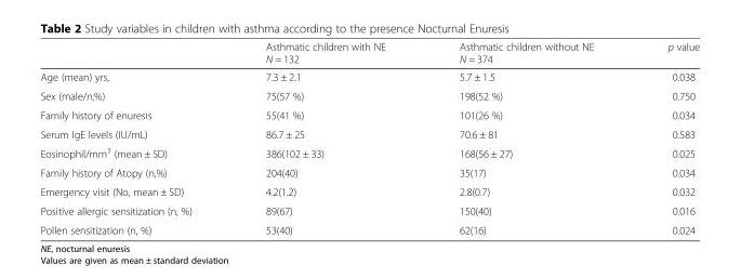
<table><thead><tr><td></td><td>Asthmatic children with NE N = 132</td><td>Asthmatic children without NE N = 374</td><td>p value</td></tr></thead><tbody><tr><td>Age (mean) yrs,</td><td>7.3 ± 2.1</td><td>5.7 ± 1.5</td><td>0.038</td></tr><tr><td>Sex (male/n,%)</td><td>75(57 %)</td><td>198(52 %)</td><td>0.750</td></tr><tr><td>Family history of enuresis</td><td>55(41 %)</td><td>101(26 %)</td><td>0.034</td></tr><tr><td>Serum IgE levels (IU/mL)</td><td>86.7 ± 25</td><td>70.6 ± 81</td><td>0.583</td></tr><tr><td>Eosinophil/mm<sup>3</sup> (mean ± SD)</td><td>386(102 ± 33)</td><td>168(56 ± 27)</td><td>0.025</td></tr><tr><td>Family history of Atopy (n,%)</td><td>204(40)</td><td>35(17)</td><td>0.034</td></tr><tr><td>Emergency visit (No, mean ± SD)</td><td>4.2(1.2)</td><td>2.8(0.7)</td><td>0.032</td></tr><tr><td>Positive allergic sensitization (n, %)</td><td>89(67)</td><td>150(40)</td><td>0.016</td></tr><tr><td>Pollen sensitization (n, %)</td><td>53(40)</td><td>62(16)</td><td>0.024</td></tr></tbody></table>